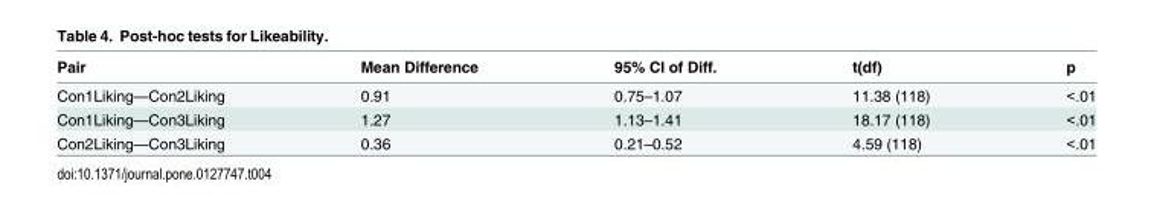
<table><thead><tr><td>Pair</td><td>Mean Difference</td><td>95% CI of Diff.</td><td>t(df)</td><td>p</td></tr></thead><tbody><tr><td>Con1Liking—Con2Liking</td><td>0.91</td><td>0.75–1.07</td><td>11.38 (118)</td><td>&lt;.01</td></tr><tr><td>Con1Liking—Con3Liking</td><td>1.27</td><td>1.13–1.41</td><td>18.17 (118)</td><td>&lt;.01</td></tr><tr><td>Con2Liking—Con3Liking</td><td>0.36</td><td>0.21–0.52</td><td>4.59 (118)</td><td>&lt;.01</td></tr></tbody></table>